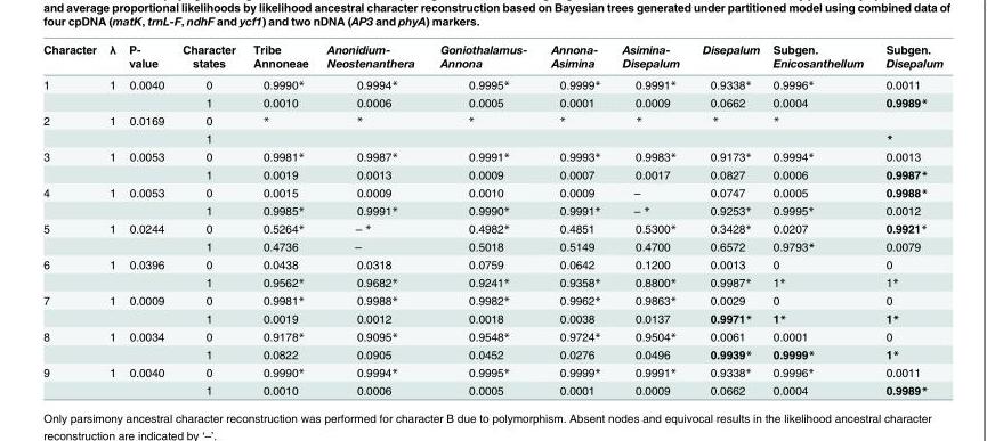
<table><thead><tr><td>Character</td><td>λ</td><td>P- value</td><td>Character states</td><td>Tribe Annoneae</td><td>Anonidium- Neostenanthera</td><td>Goniothalamus- Annona</td><td>Annona- Asimina</td><td>Asimina- Disepalum</td><td>Disepalum</td><td>Subgen. Enicosanthellum</td><td>Subgen. Disepalum</td></tr></thead><tbody><tr><td rowspan="2">1</td><td>1</td><td>0.0040</td><td>0</td><td>0.9990*</td><td>0.9994*</td><td>0.9995*</td><td>0.9999*</td><td>0.9991*</td><td>0.9338*</td><td>0.9996*</td><td>0.0011</td></tr><tr><td></td><td></td><td>1</td><td>0.0010</td><td>0.0006</td><td>0.0005</td><td>0.0001</td><td>0.0009</td><td>0.0662</td><td>0.0004</td><td>0.9989*</td></tr><tr><td rowspan="2">2</td><td>1</td><td>0.0169</td><td>0</td><td>*</td><td>*</td><td>*</td><td>*</td><td>*</td><td>*</td><td>*</td><td></td></tr><tr><td></td><td></td><td>1</td><td></td><td></td><td></td><td></td><td></td><td></td><td></td><td>*</td></tr><tr><td rowspan="2">3</td><td>1</td><td>0.0053</td><td>0</td><td>0.9981*</td><td>0.9987*</td><td>0.9991*</td><td>0.9993*</td><td>0.9983*</td><td>0.9173*</td><td>0.9994*</td><td>0.0013</td></tr><tr><td></td><td></td><td>1</td><td>0.0019</td><td>0.0013</td><td>0.0009</td><td>0.0007</td><td>0.0017</td><td>0.0827</td><td>0.0006</td><td>0.9987*</td></tr><tr><td rowspan="2">4</td><td>1</td><td>0.0053</td><td>0</td><td>0.0015</td><td>0.0009</td><td>0.0010</td><td>0.0009</td><td>–</td><td>0.0747</td><td>0.0005</td><td>0.9988*</td></tr><tr><td></td><td></td><td>1</td><td>0.9985*</td><td>0.9991*</td><td>0.9990*</td><td>0.9991*</td><td>– *</td><td>0.9253*</td><td>0.9995*</td><td>0.0012</td></tr><tr><td rowspan="2">5</td><td>1</td><td>0.0244</td><td>0</td><td>0.5264*</td><td>– *</td><td>0.4982*</td><td>0.4851</td><td>0.5300*</td><td>0.3428*</td><td>0.0207</td><td>0.9921*</td></tr><tr><td></td><td></td><td>1</td><td>0.4736</td><td>–</td><td>0.5018</td><td>0.5149</td><td>0.4700</td><td>0.6572</td><td>0.9793*</td><td>0.0079</td></tr><tr><td rowspan="2">6</td><td>1</td><td>0.0396</td><td>0</td><td>0.0438</td><td>0.0318</td><td>0.0759</td><td>0.0642</td><td>0.1200</td><td>0.0013</td><td>0</td><td>0</td></tr><tr><td></td><td></td><td>1</td><td>0.9562*</td><td>0.9682*</td><td>0.9241*</td><td>0.9358*</td><td>0.8800*</td><td>0.9987*</td><td>1*</td><td>1*</td></tr><tr><td rowspan="2">7</td><td>1</td><td>0.0009</td><td>0</td><td>0.9981*</td><td>0.9988*</td><td>0.9982*</td><td>0.9962*</td><td>0.9863*</td><td>0.0029</td><td>0</td><td>0</td></tr><tr><td></td><td></td><td>1</td><td>0.0019</td><td>0.0012</td><td>0.0018</td><td>0.0038</td><td>0.0137</td><td>0.9971*</td><td>1*</td><td>1*</td></tr><tr><td rowspan="2">8</td><td>1</td><td>0.0034</td><td>0</td><td>0.9178*</td><td>0.9095*</td><td>0.9548*</td><td>0.9724*</td><td>0.9504*</td><td>0.0061</td><td>0.0001</td><td>0</td></tr><tr><td></td><td></td><td>1</td><td>0.0822</td><td>0.0905</td><td>0.0452</td><td>0.0276</td><td>0.0496</td><td>0.9939*</td><td>0.9999*</td><td>1*</td></tr><tr><td rowspan="2">9</td><td>1</td><td>0.0040</td><td>0</td><td>0.9990*</td><td>0.9994*</td><td>0.9995*</td><td>0.9999*</td><td>0.9991*</td><td>0.9338*</td><td>0.9996*</td><td>0.0011</td></tr><tr><td></td><td></td><td>1</td><td>0.0010</td><td>0.0006</td><td>0.0005</td><td>0.0001</td><td>0.0009</td><td>0.0662</td><td>0.0004</td><td>0.9989*</td></tr></tbody></table>